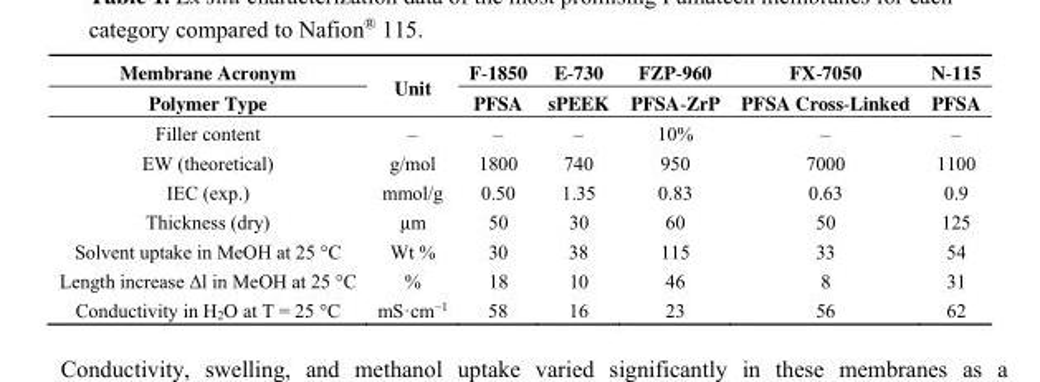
<table><thead><tr><td rowspan="2">Membrane Acronym Polymer Type</td><td rowspan="2">Unit</td><td rowspan="2">F-1850 PFSA</td><td rowspan="2">E-730 sPEEK</td><td rowspan="2">FZP-960 PFSA-ZrP</td><td rowspan="2">FX-7050 PFSA Cross-Linked</td><td rowspan="2">N-115 PFSA</td></tr><tr></tr></thead><tbody><tr><td>Filler content</td><td>–</td><td>–</td><td>–</td><td>10%</td><td>–</td><td>–</td></tr><tr><td>EW (theoretical)</td><td>g/mol</td><td>1800</td><td>740</td><td>950</td><td>7000</td><td>1100</td></tr><tr><td>IEC (exp.)</td><td>mmol/g</td><td>0.50</td><td>1.35</td><td>0.83</td><td>0.63</td><td>0.9</td></tr><tr><td>Thickness (dry)</td><td>µm</td><td>50</td><td>30</td><td>60</td><td>50</td><td>125</td></tr><tr><td>Solvent uptake in MeOH at 25 °C</td><td>Wt %</td><td>30</td><td>38</td><td>115</td><td>33</td><td>54</td></tr><tr><td>Length increase Δl in MeOH at 25 °C</td><td>%</td><td>18</td><td>10</td><td>46</td><td>8</td><td>31</td></tr><tr><td>Conductivity in H<sub>2</sub>O at T = 25 °C</td><td>mS·cm<sup>−1</sup></td><td>58</td><td>16</td><td>23</td><td>56</td><td>62</td></tr></tbody></table>